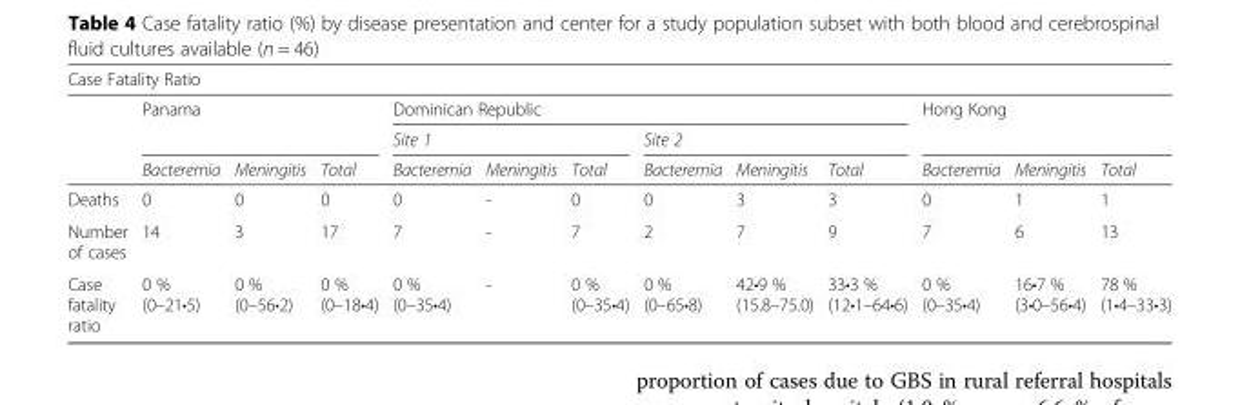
<table><thead><tr><td colspan="13">Case Fatality Ratio</td></tr><tr><td rowspan="3"></td><td rowspan="2" colspan="3">Panama</td><td colspan="6">Dominican Republic</td><td rowspan="2" colspan="3">Hong Kong</td></tr><tr><td colspan="3">Site 1</td><td colspan="3">Site 2</td></tr><tr><td>Bacteremia</td><td>Meningitis</td><td>Total</td><td>Bacteremia</td><td>Meningitis</td><td>Total</td><td>Bacteremia</td><td>Meningitis</td><td>Total</td><td>Bacteremia</td><td>Meningitis</td><td>Total</td></tr></thead><tbody><tr><td>Deaths</td><td>0</td><td>0</td><td>0</td><td>0</td><td>-</td><td>0</td><td>0</td><td>3</td><td>3</td><td>0</td><td>1</td><td>1</td></tr><tr><td>Number of cases</td><td>14</td><td>3</td><td>17</td><td>7</td><td>-</td><td>7</td><td>2</td><td>7</td><td>9</td><td>7</td><td>6</td><td>13</td></tr><tr><td>Case fatality ratio</td><td>0 % (0–21•5)</td><td>0 % (0–56•2)</td><td>0 % (0–18•4)</td><td>0 % (0–35•4)</td><td>-</td><td>0 % (0–35•4)</td><td>0 % (0–65•8)</td><td>42•9 % (15.8–75.0)</td><td>33•3 % (12•1–64•6)</td><td>0 % (0–35•4)</td><td>16•7 % (3•0–56•4)</td><td>78 % (1•4–33•3)</td></tr></tbody></table>